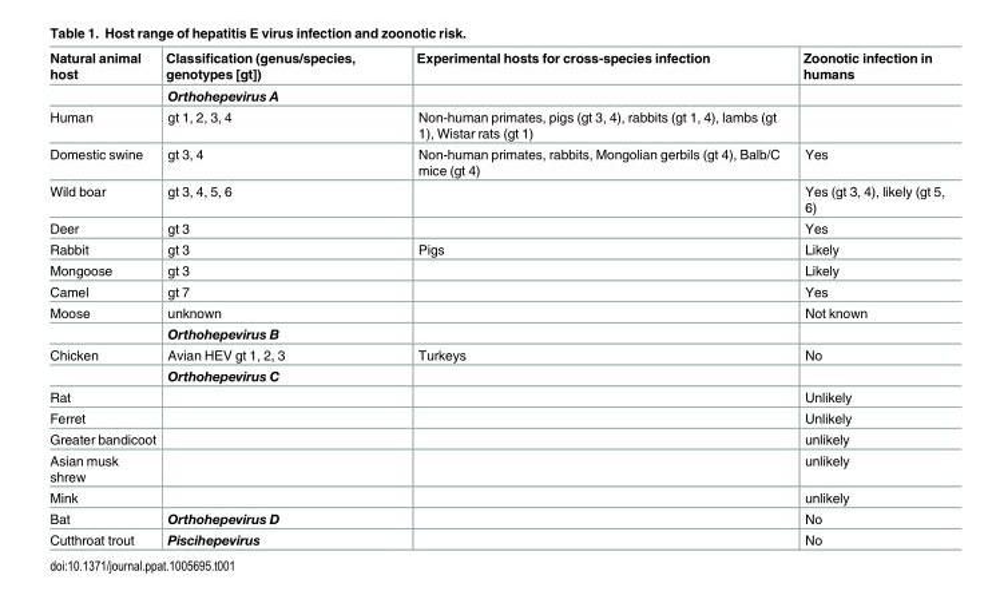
<table><thead><tr><td>Natural animal host</td><td>Classification (genus/species, genotypes [gt])</td><td>Experimental hosts for cross-species infection</td><td>Zoonotic infection in humans</td></tr></thead><tbody><tr><td></td><td>Orthohepevirus A</td><td></td><td></td></tr><tr><td>Human</td><td>gt 1, 2, 3, 4</td><td>Non-human primates, pigs (gt 3, 4), rabbits (gt 1, 4), lambs (gt 1), Wistar rats (gt 1)</td><td></td></tr><tr><td>Domestic swine</td><td>gt 3, 4</td><td>Non-human primates, rabbits, Mongolian gerbils (gt 4), Balb/C mice (gt 4)</td><td>Yes</td></tr><tr><td>Wild boar</td><td>gt 3, 4, 5, 6</td><td></td><td>Yes (gt 3, 4), likely (gt 5, 6)</td></tr><tr><td>Deer</td><td>gt 3</td><td></td><td>Yes</td></tr><tr><td>Rabbit</td><td>gt 3</td><td>Pigs</td><td>Likely</td></tr><tr><td>Mongoose</td><td>gt 3</td><td></td><td>Likely</td></tr><tr><td>Camel</td><td>gt 7</td><td></td><td>Yes</td></tr><tr><td rowspan="2">Moose</td><td>unknown</td><td></td><td>Not known</td></tr><tr><td>Orthohepevirus B</td><td></td><td></td></tr><tr><td rowspan="2">Chicken</td><td>Avian HEV gt 1, 2, 3</td><td>Turkeys</td><td>No</td></tr><tr><td>Orthohepevirus C</td><td></td><td></td></tr><tr><td>Rat</td><td></td><td></td><td>Unlikely</td></tr><tr><td>Ferret</td><td></td><td></td><td>Unlikely</td></tr><tr><td>Greater bandicoot</td><td></td><td></td><td>unlikely</td></tr><tr><td>Asian musk shrew</td><td></td><td></td><td>unlikely</td></tr><tr><td>Mink</td><td></td><td></td><td>unlikely</td></tr><tr><td>Bat</td><td>Orthohepevirus D</td><td></td><td>No</td></tr><tr><td>Cutthroat trout</td><td>Piscihepevirus</td><td></td><td>No</td></tr></tbody></table>